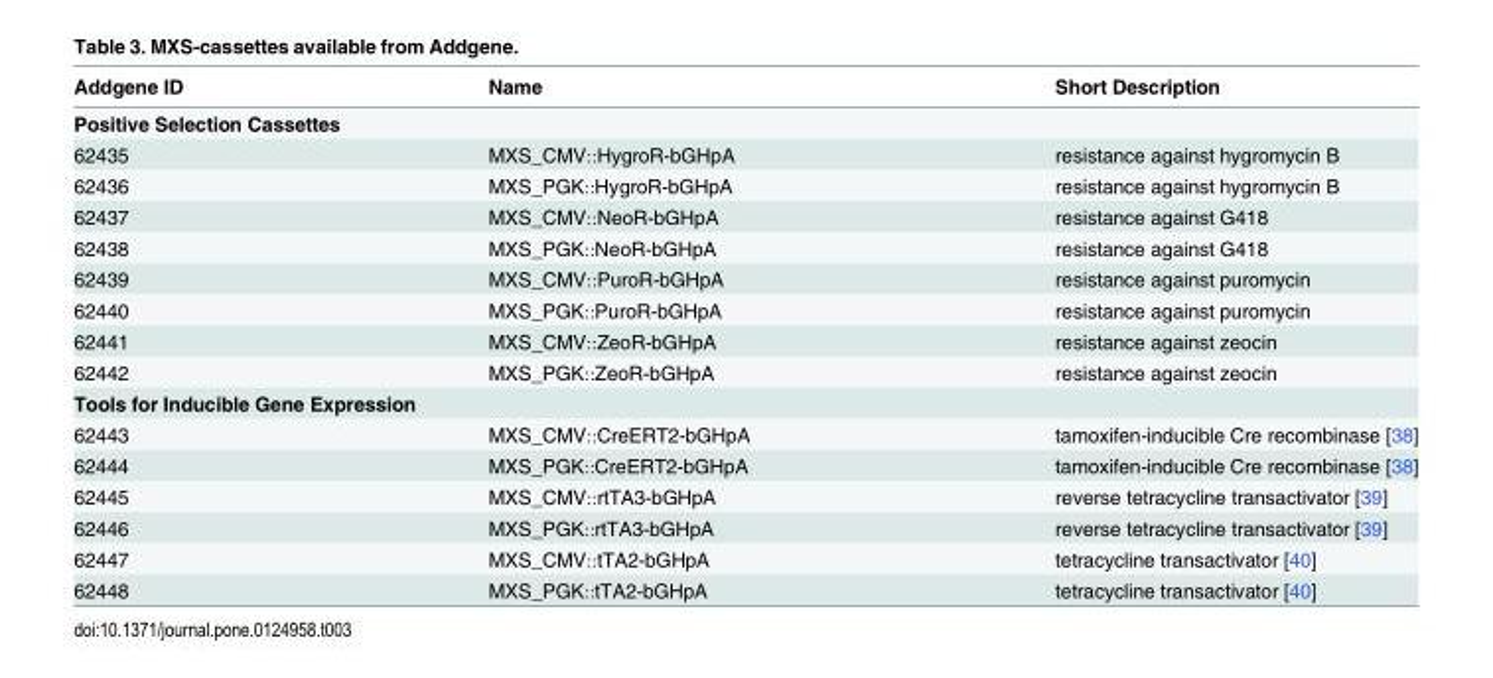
<table><thead><tr><td>Addgene ID</td><td>Name</td><td>Short Description</td></tr></thead><tbody><tr><td colspan="3">Positive Selection Cassettes</td></tr><tr><td>62435</td><td>MXS_CMV::HygroR-bGHpA</td><td>resistance against hygromycin B</td></tr><tr><td>62436</td><td>MXS_PGK::HygroR-bGHpA</td><td>resistance against hygromycin B</td></tr><tr><td>62437</td><td>MXS_CMV::NeoR-bGHpA</td><td>resistance against G418</td></tr><tr><td>62438</td><td>MXS_PGK::NeoR-bGHpA</td><td>resistance against G418</td></tr><tr><td>62439</td><td>MXS_CMV::PuroR-bGHpA</td><td>resistance against puromycin</td></tr><tr><td>62440</td><td>MXS_PGK::PuroR-bGHpA</td><td>resistance against puromycin</td></tr><tr><td>62441</td><td>MXS_CMV::ZeoR-bGHpA</td><td>resistance against zeocin</td></tr><tr><td>62442</td><td>MXS_PGK::ZeoR-bGHpA</td><td>resistance against zeocin</td></tr><tr><td colspan="3">Tools for Inducible Gene Expression</td></tr><tr><td>62443</td><td>MXS_CMV::CreERT2-bGHpA</td><td>tamoxifen-inducible Cre recombinase [38]</td></tr><tr><td>62444</td><td>MXS_PGK::CreERT2-bGHpA</td><td>tamoxifen-inducible Cre recombinase [38]</td></tr><tr><td>62445</td><td>MXS_CMV::rtTA3-bGHpA</td><td>reverse tetracycline transactivator [39]</td></tr><tr><td>62446</td><td>MXS_PGK::rtTA3-bGHpA</td><td>reverse tetracycline transactivator [39]</td></tr><tr><td>62447</td><td>MXS_CMV::tTA2-bGHpA</td><td>tetracycline transactivator [40]</td></tr><tr><td>62448</td><td>MXS_PGK::tTA2-bGHpA</td><td>tetracycline transactivator [40]</td></tr></tbody></table>